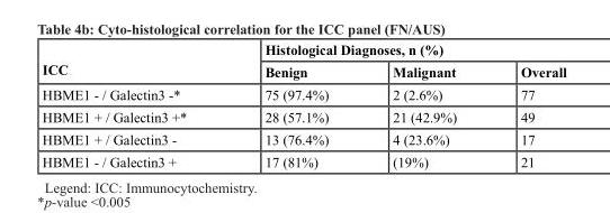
<table><thead><tr><td rowspan="2">ICC</td><td colspan="3">Histological Diagnoses, n (%)</td></tr><tr><td>Benign</td><td>Malignant</td><td>Overall</td></tr></thead><tbody><tr><td>HBME1 - / Galectin3 -*</td><td>75 (97.4%)</td><td>2 (2.6%)</td><td>77</td></tr><tr><td>HBME1 + / Galectin3 +*</td><td>28 (57.1%)</td><td>21 (42.9%)</td><td>49</td></tr><tr><td>HBME1 + / Galectin3 -</td><td>13 (76.4%)</td><td>4 (23.6%)</td><td>17</td></tr><tr><td>HBME1 - / Galectin3 +</td><td>17 (81%)</td><td>(19%)</td><td>21</td></tr></tbody></table>